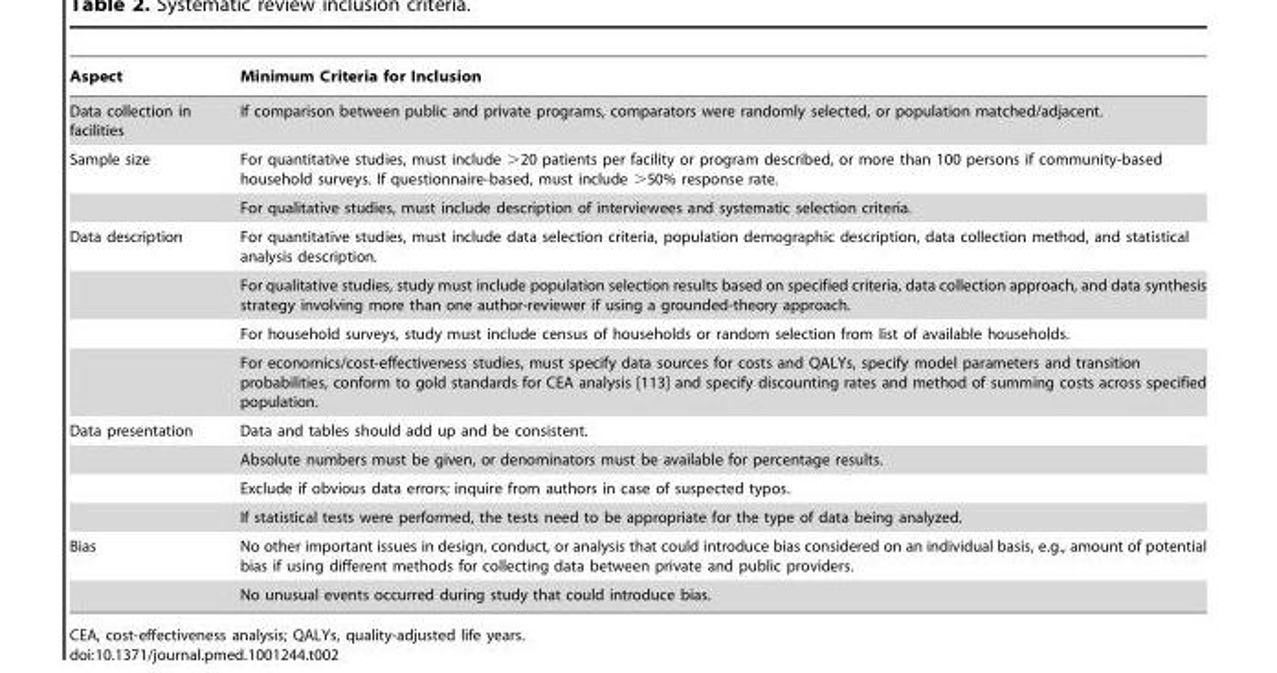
<table><thead><tr><td>Aspect</td><td>Minimum Criteria for Inclusion</td></tr></thead><tbody><tr><td>Data collection in facilities</td><td>If comparison between public and private programs, comparators were randomly selected, or population matched/adjacent.</td></tr><tr><td rowspan="2">Sample size</td><td>For quantitative studies, must include &gt;20 patients per facility or program described, or more than 100 persons if community-based household surveys. If questionnaire-based, must include &gt;50% response rate.</td></tr><tr><td>For qualitative studies, must include description of interviewees and systematic selection criteria.</td></tr><tr><td rowspan="4">Data description</td><td>For quantitative studies, must include data selection criteria, population demographic description, data collection method, and statistical analysis description.</td></tr><tr><td>For qualitative studies, study must include population selection results based on specified criteria, data collection approach, and data synthesis strategy involving more than one author-reviewer if using a grounded-theory approach.</td></tr><tr><td>For household surveys, study must include census of households or random selection from list of available households.</td></tr><tr><td>For economics/cost-effectiveness studies, must specify data sources for costs and QALYs, specify model parameters and transition probabilities, conform to gold standards for CEA analysis [113] and specify discounting rates and method of summing costs across specified population.</td></tr><tr><td rowspan="4">Data presentation</td><td>Data and tables should add up and be consistent.</td></tr><tr><td>Absolute numbers must be given, or denominators must be available for percentage results.</td></tr><tr><td>Exclude if obvious data errors; inquire from authors in case of suspected typos.</td></tr><tr><td>If statistical tests were performed, the tests need to be appropriate for the type of data being analyzed.</td></tr><tr><td rowspan="2">Bias</td><td>No other important issues in design, conduct, or analysis that could introduce bias considered on an individual basis, e.g., amount of potential bias if using different methods for collecting data between private and public providers.</td></tr><tr><td>No unusual events occurred during study that could introduce bias.</td></tr></tbody></table>